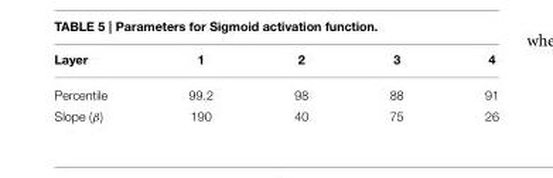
<table><thead><tr><td>Layer</td><td>1</td><td>2</td><td>3</td><td>4</td></tr></thead><tbody><tr><td>Percentile</td><td>99.2</td><td>98</td><td>88</td><td>91</td></tr><tr><td>Slope (β)</td><td>190</td><td>40</td><td>75</td><td>26</td></tr></tbody></table>